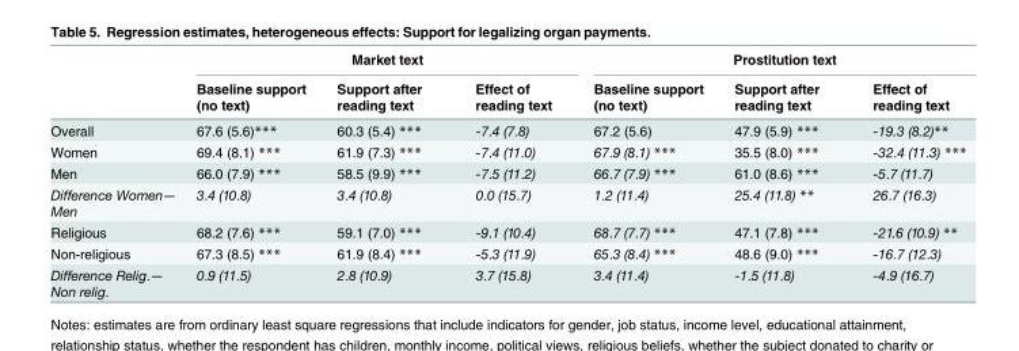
<table><thead><tr><td rowspan="2"></td><td colspan="3">Market text</td><td colspan="3">Prostitution text</td></tr><tr><td>Baseline support (no text)</td><td>Support after reading text</td><td>Effect of reading text</td><td>Baseline support (no text)</td><td>Support after reading text</td><td>Effect of reading text</td></tr></thead><tbody><tr><td>Overall</td><td>67.6 (5.6)***</td><td>60.3 (5.4) ***</td><td>-7.4 (7.8)</td><td>67.2 (5.6)</td><td>47.9 (5.9) ***</td><td>-19.3 (8.2)**</td></tr><tr><td>Women</td><td>69.4 (8.1) ***</td><td>61.9 (7.3) ***</td><td>-7.4 (11.0)</td><td>67.9 (8.1) ***</td><td>35.5 (8.0) ***</td><td>-32.4 (11.3) ***</td></tr><tr><td>Men</td><td>66.0 (7.9) ***</td><td>58.5 (9.9) ***</td><td>-7.5 (11.2)</td><td>66.7 (7.9) ***</td><td>61.0 (8.6) ***</td><td>-5.7 (11.7)</td></tr><tr><td>Difference Women— Men</td><td>3.4 (10.8)</td><td>3.4 (10.8)</td><td>0.0 (15.7)</td><td>1.2 (11.4)</td><td>25.4 (11.8) **</td><td>26.7 (16.3)</td></tr><tr><td>Religious</td><td>68.2 (7.6) ***</td><td>59.1 (7.0) ***</td><td>-9.1 (10.4)</td><td>68.7 (7.7) ***</td><td>47.1 (7.8) ***</td><td>-21.6 (10.9) **</td></tr><tr><td>Non-religious</td><td>67.3 (8.5) ***</td><td>61.9 (8.4) ***</td><td>-5.3 (11.9)</td><td>65.3 (8.4) ***</td><td>48.6 (9.0) ***</td><td>-16.7 (12.3)</td></tr><tr><td>Difference Relig.— Non relig.</td><td>0.9 (11.5)</td><td>2.8 (10.9)</td><td>3.7 (15.8)</td><td>3.4 (11.4)</td><td>-1.5 (11.8)</td><td>-4.9 (16.7)</td></tr></tbody></table>